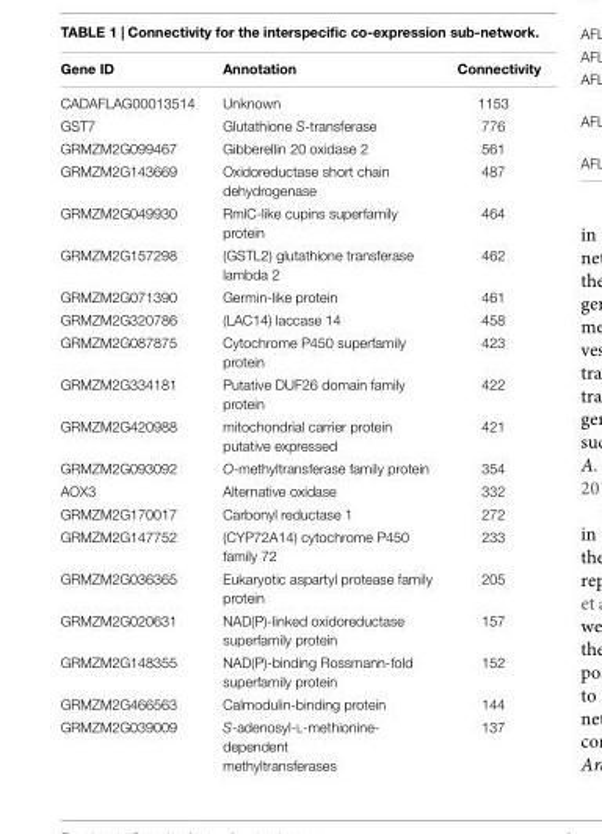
<table><thead><tr><td>Gene ID</td><td>Annotation</td><td>Connectivity</td></tr></thead><tbody><tr><td>CADAFLAG00013514</td><td>Unknown</td><td>1153</td></tr><tr><td>GST7</td><td>Glutathione S-transferase</td><td>776</td></tr><tr><td>GRMZM2G099467</td><td>Gibberellin 20 oxidase 2</td><td>561</td></tr><tr><td>GRMZM2G143669</td><td>Oxidoreductase short chain dehydrogenase</td><td>487</td></tr><tr><td>GRMZM2G049930</td><td>RmlC-like cupins superfamily protein</td><td>464</td></tr><tr><td>GRMZM2G157298</td><td>(GSTL2) glutathione transferase lambda 2</td><td>462</td></tr><tr><td>GRMZM2G071390</td><td>Germin-like protein</td><td>461</td></tr><tr><td>GRMZM2G320786</td><td>(LAC14) laccase 14</td><td>458</td></tr><tr><td>GRMZM2G087875</td><td>Cytochrome P450 superfamily protein</td><td>423</td></tr><tr><td>GRMZM2G334181</td><td>Putative DUF26 domain family protein</td><td>422</td></tr><tr><td>GRMZM2G420988</td><td>mitochondrial carrier protein putative expressed</td><td>421</td></tr><tr><td>GRMZM2G093092</td><td>O-methyltransferase family protein</td><td>354</td></tr><tr><td>AOX3</td><td>Alternative oxidase</td><td>332</td></tr><tr><td>GRMZM2G170017</td><td>Carbonyl reductase 1</td><td>272</td></tr><tr><td>GRMZM2G147752</td><td>(CYP72A14) cytochrome P450 family 72</td><td>233</td></tr><tr><td>GRMZM2G036365</td><td>Eukaryotic aspartyl protease family protein</td><td>205</td></tr><tr><td>GRMZM2G020631</td><td>NAD(P)-linked oxidoreductase superfamily protein</td><td>157</td></tr><tr><td>GRMZM2G148355</td><td>NAD(P)-binding Rossmann-fold superfamily protein</td><td>152</td></tr><tr><td>GRMZM2G466563</td><td>Calmodulin-binding protein</td><td>144</td></tr><tr><td>GRMZM2G039009</td><td>S-adenosyl-L-methionine- dependent methyltransferases</td><td>137</td></tr></tbody></table>